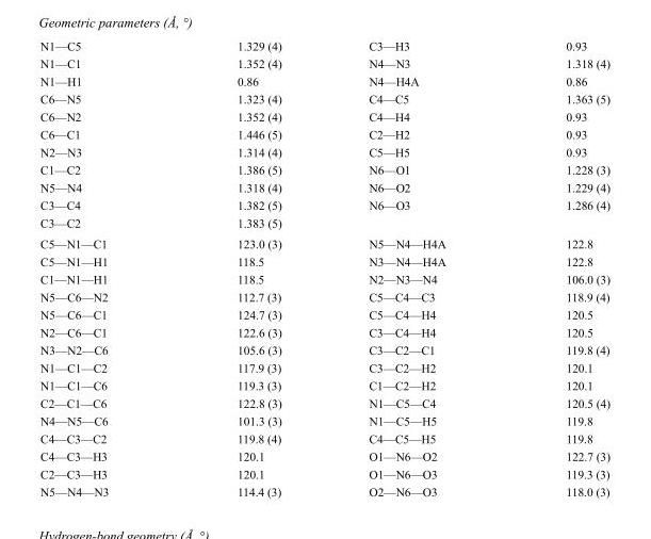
<table><tbody><tr><td>N1—C5</td><td>1.329 (4)</td><td>C3—H3</td><td>0.93</td></tr><tr><td>N1—C1</td><td>1.352 (4)</td><td>N4—N3</td><td>1.318 (4)</td></tr><tr><td>N1—H1</td><td>0.86</td><td>N4—H4A</td><td>0.86</td></tr><tr><td>C6—N5</td><td>1.323 (4)</td><td>C4—C5</td><td>1.363 (5)</td></tr><tr><td>C6—N2</td><td>1.352 (4)</td><td>C4—H4</td><td>0.93</td></tr><tr><td>C6—C1</td><td>1.446 (5)</td><td>C2—H2</td><td>0.93</td></tr><tr><td>N2—N3</td><td>1.314 (4)</td><td>C5—H5</td><td>0.93</td></tr><tr><td>C1—C2</td><td>1.386 (5)</td><td>N6—O1</td><td>1.228 (3)</td></tr><tr><td>N5—N4</td><td>1.318 (4)</td><td>N6—O2</td><td>1.229 (4)</td></tr><tr><td>C3—C4</td><td>1.382 (5)</td><td>N6—O3</td><td>1.286 (4)</td></tr><tr><td>C3—C2</td><td>1.383 (5)</td><td></td><td></td></tr><tr><td>C5—N1—C1</td><td>123.0 (3)</td><td>N5—N4—H4A</td><td>122.8</td></tr><tr><td>C5—N1—H1</td><td>118.5</td><td>N3—N4—H4A</td><td>122.8</td></tr><tr><td>C1—N1—H1</td><td>118.5</td><td>N2—N3—N4</td><td>106.0 (3)</td></tr><tr><td>N5—C6—N2</td><td>112.7 (3)</td><td>C5—C4—C3</td><td>118.9 (4)</td></tr><tr><td>N5—C6—C1</td><td>124.7 (3)</td><td>C5—C4—H4</td><td>120.5</td></tr><tr><td>N2—C6—C1</td><td>122.6 (3)</td><td>C3—C4—H4</td><td>120.5</td></tr><tr><td>N3—N2—C6</td><td>105.6 (3)</td><td>C3—C2—C1</td><td>119.8 (4)</td></tr><tr><td>N1—C1—C2</td><td>117.9 (3)</td><td>C3—C2—H2</td><td>120.1</td></tr><tr><td>N1—C1—C6</td><td>119.3 (3)</td><td>C1—C2—H2</td><td>120.1</td></tr><tr><td>C2—C1—C6</td><td>122.8 (3)</td><td>N1—C5—C4</td><td>120.5 (4)</td></tr><tr><td>N4—N5—C6</td><td>101.3 (3)</td><td>N1—C5—H5</td><td>119.8</td></tr><tr><td>C4—C3—C2</td><td>119.8 (4)</td><td>C4—C5—H5</td><td>119.8</td></tr><tr><td>C4—C3—H3</td><td>120.1</td><td>O1—N6—O2</td><td>122.7 (3)</td></tr><tr><td>C2—C3—H3</td><td>120.1</td><td>O1—N6—O3</td><td>119.3 (3)</td></tr><tr><td>N5—N4—N3</td><td>114.4 (3)</td><td>O2—N6—O3</td><td>118.0 (3)</td></tr></tbody></table>